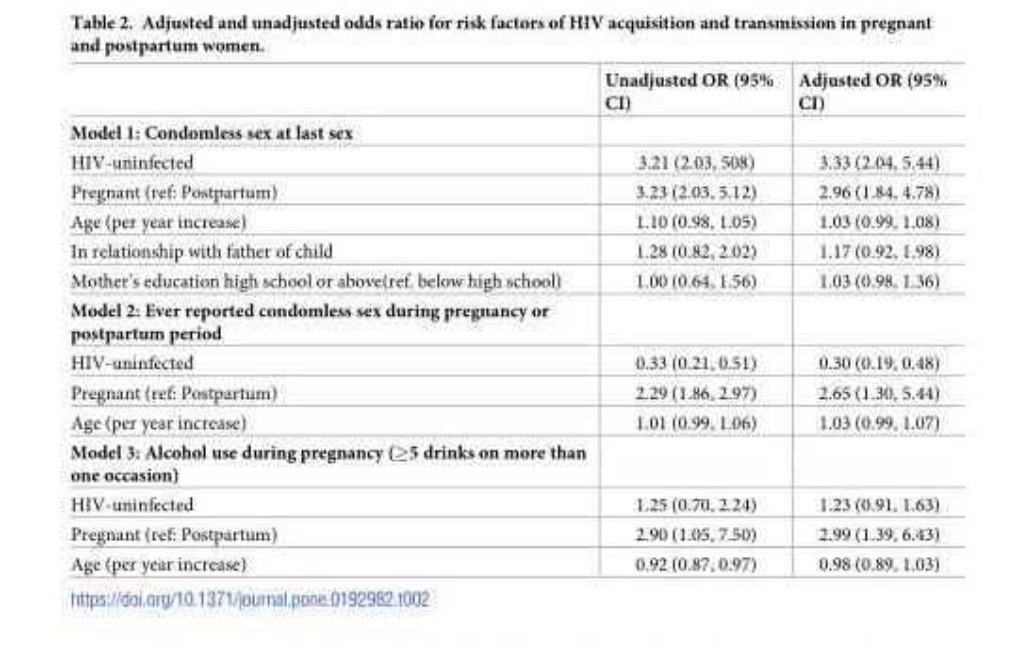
<table><thead><tr><td></td><td>Unadjusted OR (95% CI)</td><td>Adjusted OR (95% CI)</td></tr></thead><tbody><tr><td colspan="3">Model 1: Condomless sex at last sex</td></tr><tr><td>HIV-uninfected</td><td>3.21 (2.03, 508)</td><td>3.33 (2.04, 5.44)</td></tr><tr><td>Pregnant (ref: Postpartum)</td><td>3.23 (2.03, 5.12)</td><td>2.96 (1.84, 4.78)</td></tr><tr><td>Age (per year increase)</td><td>1.10 (0.98, 1.05)</td><td>1.03 (0.99, 1.08)</td></tr><tr><td>In relationship with father of child</td><td>1.28 (0.82, 2.02)</td><td>1.17 (0.92, 1.98)</td></tr><tr><td>Mother’s education high school or above(ref. below high school)</td><td>1.00 (0.64, 1.56)</td><td>1.03 (0.98, 1.36)</td></tr><tr><td colspan="3">Model 2: Ever reported condomless sex during pregnancy or postpartum period</td></tr><tr><td>HIV-uninfected</td><td>0.33 (0.21, 0.51)</td><td>0.30 (0.19, 0.48)</td></tr><tr><td>Pregnant (ref: Postpartum)</td><td>2.29 (1.86, 2.97)</td><td>2.65 (1.30, 5.44)</td></tr><tr><td>Age (per year increase)</td><td>1.01 (0.99, 1.06)</td><td>1.03 (0.99, 1.07)</td></tr><tr><td colspan="3">Model 3: Alcohol use during pregnancy (≥5 drinks on more than one occasion)</td></tr><tr><td>HIV-uninfected</td><td>1.25 (0.70, 2.24)</td><td>1.23 (0.91, 1.63)</td></tr><tr><td>Pregnant (ref: Postpartum)</td><td>2.90 (1.05, 7.50)</td><td>2.99 (1.39, 6.43)</td></tr><tr><td>Age (per year increase)</td><td>0.92 (0.87, 0.97)</td><td>0.98 (0.89, 1.03)</td></tr></tbody></table>